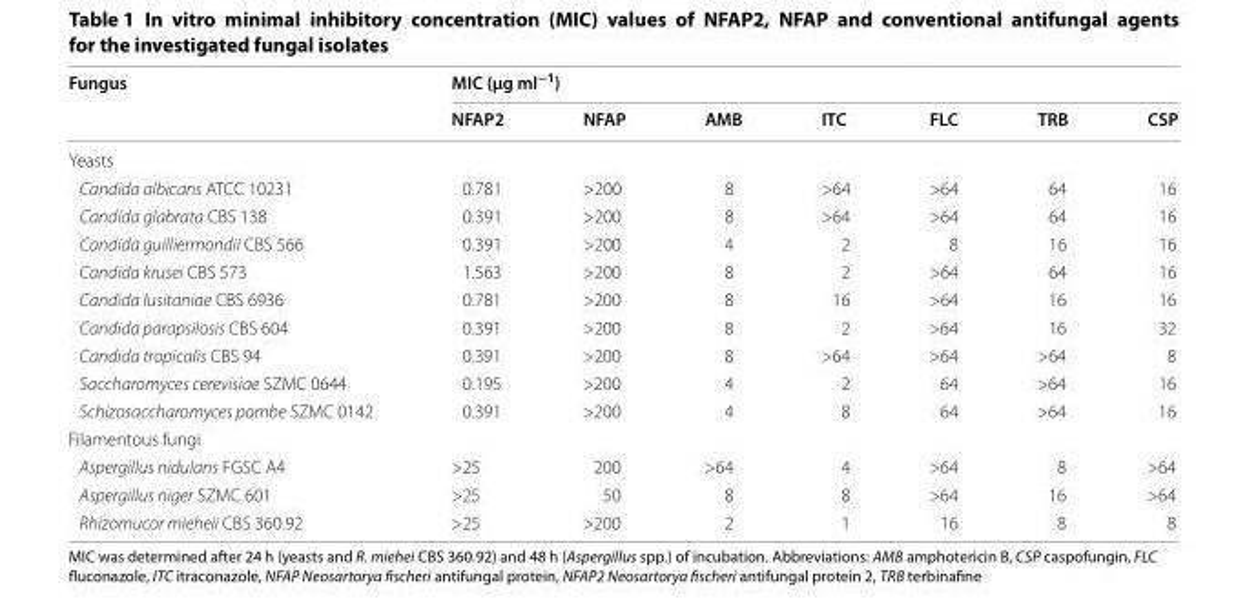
<table><thead><tr><td rowspan="2">Fungus</td><td colspan="7">MIC (µg ml<sup>−1</sup>)</td></tr><tr><td>NFAP2</td><td>NFAP</td><td>AMB</td><td>ITC</td><td>FLC</td><td>TRB</td><td>CSP</td></tr></thead><tbody><tr><td colspan="8">Yeasts</td></tr><tr><td>Candida albicans ATCC 10231</td><td>0.781</td><td>&gt;200</td><td>8</td><td>&gt;64</td><td>&gt;64</td><td>64</td><td>16</td></tr><tr><td>Candida glabrata CBS 138</td><td>0.391</td><td>&gt;200</td><td>8</td><td>&gt;64</td><td>&gt;64</td><td>64</td><td>16</td></tr><tr><td>Candida guilliermondii CBS 566</td><td>0.391</td><td>&gt;200</td><td>4</td><td>2</td><td>8</td><td>16</td><td>16</td></tr><tr><td>Candida krusei CBS 573</td><td>1.563</td><td>&gt;200</td><td>8</td><td>2</td><td>&gt;64</td><td>64</td><td>16</td></tr><tr><td>Candida lusitaniae CBS 6936</td><td>0.781</td><td>&gt;200</td><td>8</td><td>16</td><td>&gt;64</td><td>16</td><td>16</td></tr><tr><td>Candida parapsilosis CBS 604</td><td>0.391</td><td>&gt;200</td><td>8</td><td>2</td><td>&gt;64</td><td>16</td><td>32</td></tr><tr><td>Candida tropicalis CBS 94</td><td>0.391</td><td>&gt;200</td><td>8</td><td>&gt;64</td><td>&gt;64</td><td>&gt;64</td><td>8</td></tr><tr><td>Saccharomyces cerevisiae SZMC 0644</td><td>0.195</td><td>&gt;200</td><td>4</td><td>2</td><td>64</td><td>&gt;64</td><td>16</td></tr><tr><td>Schizosaccharomyces pombe SZMC 0142</td><td>0.391</td><td>&gt;200</td><td>4</td><td>8</td><td>64</td><td>&gt;64</td><td>16</td></tr><tr><td colspan="8">Filamentous fungi</td></tr><tr><td>Aspergillus nidulans FGSC A4</td><td>&gt;25</td><td>200</td><td>&gt;64</td><td>4</td><td>&gt;64</td><td>8</td><td>&gt;64</td></tr><tr><td>Aspergillus niger SZMC 601</td><td>&gt;25</td><td>50</td><td>8</td><td>8</td><td>&gt;64</td><td>16</td><td>&gt;64</td></tr><tr><td>Rhizomucor mieheii CBS 360.92</td><td>&gt;25</td><td>&gt;200</td><td>2</td><td>1</td><td>16</td><td>8</td><td>8</td></tr></tbody></table>